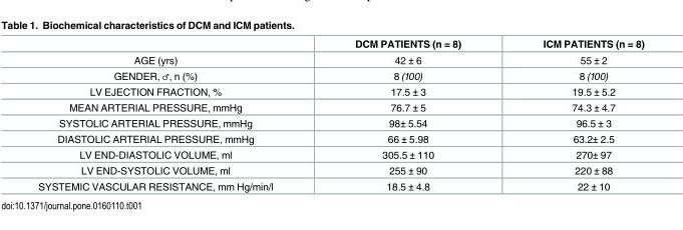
<table><thead><tr><td></td><td>DCM PATIENTS (n = 8)</td><td>ICM PATIENTS (n = 8)</td></tr></thead><tbody><tr><td>AGE (yrs)</td><td>42 ± 6</td><td>55 ± 2</td></tr><tr><td>GENDER, ♂, n (%)</td><td>8 (100)</td><td>8 (100)</td></tr><tr><td>LV EJECTION FRACTION, %</td><td>17.5 ± 3</td><td>19.5 ± 5.2</td></tr><tr><td>MEAN ARTERIAL PRESSURE, mmHg</td><td>76.7 ± 5</td><td>74.3 ± 4.7</td></tr><tr><td>SYSTOLIC ARTERIAL PRESSURE, mmHg</td><td>98± 5.54</td><td>96.5 ± 3</td></tr><tr><td>DIASTOLIC ARTERIAL PRESSURE, mmHg</td><td>66 ± 5.98</td><td>63.2± 2.5</td></tr><tr><td>LV END-DIASTOLIC VOLUME, ml</td><td>305.5 ± 110</td><td>270± 97</td></tr><tr><td>LV END-SYSTOLIC VOLUME, ml</td><td>255 ± 90</td><td>220 ± 88</td></tr><tr><td>SYSTEMIC VASCULAR RESISTANCE, mm Hg/min/l</td><td>18.5 ± 4.8</td><td>22 ± 10</td></tr></tbody></table>